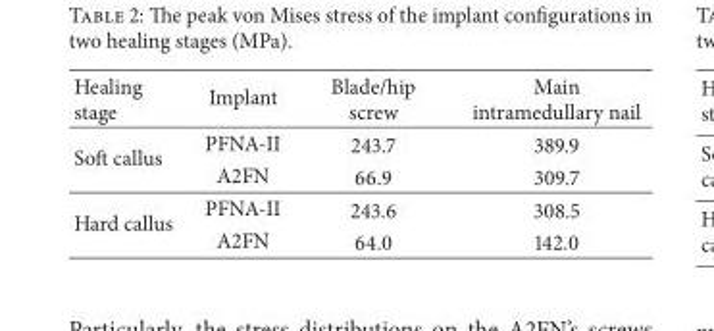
<table><thead><tr><td>Healing stage</td><td>Implant</td><td>Blade/hip screw</td><td>Main intramedullary nail</td></tr></thead><tbody><tr><td rowspan="2">Soft callus</td><td>PFNA-II</td><td>243.7</td><td>389.9</td></tr><tr><td>A2FN</td><td>66.9</td><td>309.7</td></tr><tr><td rowspan="2">Hard callus</td><td>PFNA-II</td><td>243.6</td><td>308.5</td></tr><tr><td>A2FN</td><td>64.0</td><td>142.0</td></tr></tbody></table>